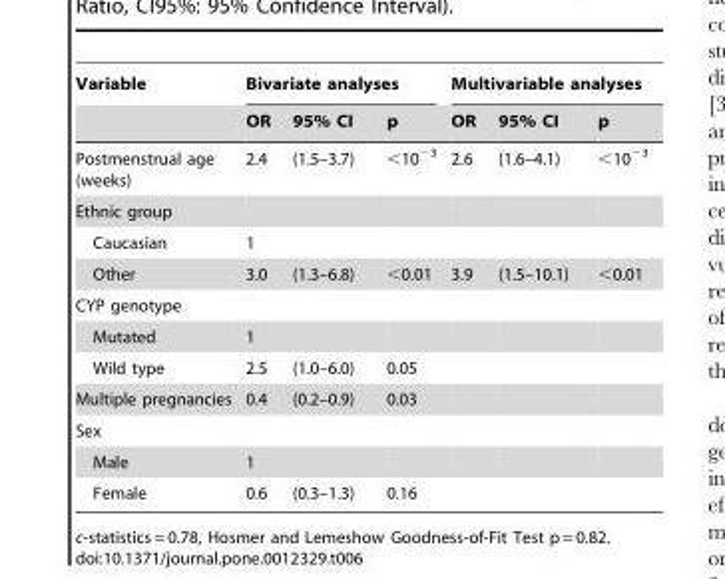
<table><thead><tr><td rowspan="2">Variable</td><td colspan="3">Bivariate analyses</td><td colspan="3">Multivariable analyses</td></tr><tr><td>OR</td><td>95% CI</td><td>p</td><td>OR</td><td>95% CI</td><td>p</td></tr></thead><tbody><tr><td>Postmenstrual age (weeks)</td><td>2.4</td><td>(1.5–3.7)</td><td>&lt;10<sup>−3</sup></td><td>2.6</td><td>(1.6–4.1)</td><td>&lt;10<sup>−3</sup></td></tr><tr><td colspan="7">Ethnic group</td></tr><tr><td>Caucasian</td><td>1</td><td></td><td></td><td></td><td></td><td></td></tr><tr><td>Other</td><td>3.0</td><td>(1.3–6.8)</td><td>&lt;0.01</td><td>3.9</td><td>(1.5–10.1)</td><td>&lt;0.01</td></tr><tr><td colspan="7">CYP genotype</td></tr><tr><td>Mutated</td><td>1</td><td></td><td></td><td></td><td></td><td></td></tr><tr><td>Wild type</td><td>2.5</td><td>(1.0–6.0)</td><td>0.05</td><td></td><td></td><td></td></tr><tr><td>Multiple pregnancies</td><td>0.4</td><td>(0.2–0.9)</td><td>0.03</td><td></td><td></td><td></td></tr><tr><td colspan="7">Sex</td></tr><tr><td>Male</td><td>1</td><td></td><td></td><td></td><td></td><td></td></tr><tr><td>Female</td><td>0.6</td><td>(0.3–1.3)</td><td>0.16</td><td></td><td></td><td></td></tr></tbody></table>